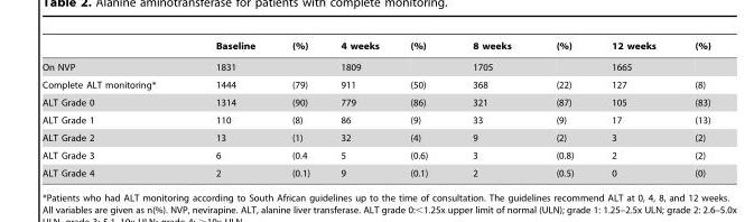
<table><thead><tr><td></td><td>Baseline</td><td>(%)</td><td>4 weeks</td><td>(%)</td><td>8 weeks</td><td>(%)</td><td>12 weeks</td><td>(%)</td></tr></thead><tbody><tr><td>On NVP</td><td>1831</td><td></td><td>1809</td><td></td><td>1705</td><td></td><td>1665</td><td></td></tr><tr><td>Complete ALT monitoring*</td><td>1444</td><td>(79)</td><td>911</td><td>(50)</td><td>368</td><td>(22)</td><td>127</td><td>(8)</td></tr><tr><td>ALT Grade 0</td><td>1314</td><td>(90)</td><td>779</td><td>(86)</td><td>321</td><td>(87)</td><td>105</td><td>(83)</td></tr><tr><td>ALT Grade 1</td><td>110</td><td>(8)</td><td>86</td><td>(9)</td><td>33</td><td>(9)</td><td>17</td><td>(13)</td></tr><tr><td>ALT Grade 2</td><td>13</td><td>(1)</td><td>32</td><td>(4)</td><td>9</td><td>(2)</td><td>3</td><td>(2)</td></tr><tr><td>ALT Grade 3</td><td>6</td><td>(0.4</td><td>5</td><td>(0.6)</td><td>3</td><td>(0.8)</td><td>2</td><td>(2)</td></tr><tr><td>ALT Grade 4</td><td>2</td><td>(0.1)</td><td>9</td><td>(0.1)</td><td>2</td><td>(0.5)</td><td>0</td><td>(0)</td></tr></tbody></table>